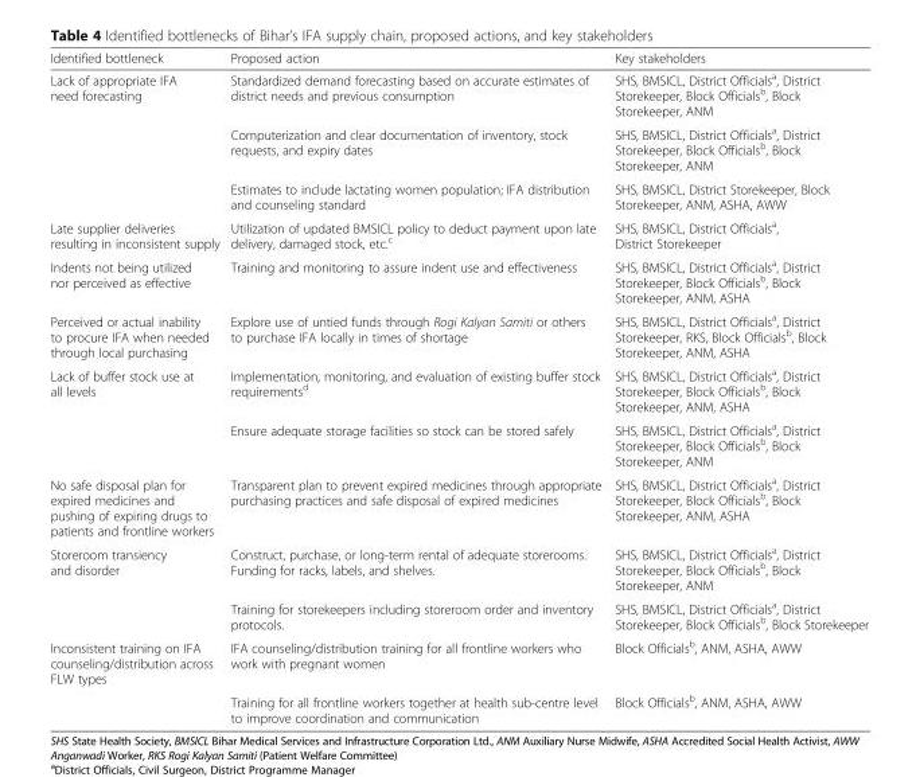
<table><thead><tr><td>Identified bottleneck</td><td>Proposed action</td><td>Key stakeholders</td></tr></thead><tbody><tr><td rowspan="3">Lack of appropriate IFA need forecasting</td><td>Standardized demand forecasting based on accurate estimates of district needs and previous consumption</td><td>SHS, BMSICL, District Officials<sup>a</sup>, District Storekeeper, Block Officials<sup>b</sup>, Block Storekeeper, ANM</td></tr><tr><td>Computerization and clear documentation of inventory, stock requests, and expiry dates</td><td>SHS, BMSICL, District Officials<sup>a</sup>, District Storekeeper, Block Officials<sup>b</sup>, Block Storekeeper, ANM</td></tr><tr><td>Estimates to include lactating women population; IFA distribution and counseling standard</td><td>SHS, BMSICL, District Storekeeper, Block Storekeeper, ANM, ASHA, AWW</td></tr><tr><td>Late supplier deliveries resulting in inconsistent supply</td><td>Utilization of updated BMSICL policy to deduct payment upon late delivery, damaged stock, etc.<sup>c</sup></td><td>SHS, BMSICL, District Officials<sup>a</sup>, District Storekeeper</td></tr><tr><td>Indents not being utilized nor perceived as effective</td><td>Training and monitoring to assure indent use and effectiveness</td><td>SHS, BMSICL, District Officials<sup>a</sup>, District Storekeeper, Block Officials<sup>b</sup>, Block Storekeeper, ANM, ASHA</td></tr><tr><td>Perceived or actual inability to procure IFA when needed through local purchasing</td><td>Explore use of untied funds through Rogi Kalyan Samiti or others to purchase IFA locally in times of shortage</td><td>SHS, BMSICL, District Officials<sup>a</sup>, District Storekeeper, RKS, Block Officials<sup>b</sup>, Block Storekeeper, ANM, ASHA</td></tr><tr><td rowspan="2">Lack of buffer stock use at all levels</td><td>Implementation, monitoring, and evaluation of existing buffer stock requirements<sup>d</sup></td><td>SHS, BMSICL, District Officials<sup>a</sup>, District Storekeeper, Block Officials<sup>b</sup>, Block Storekeeper, ANM, ASHA</td></tr><tr><td>Ensure adequate storage facilities so stock can be stored safely</td><td>SHS, BMSICL, District Officials<sup>a</sup>, District Storekeeper, Block Officials<sup>b</sup>, Block Storekeeper, ANM</td></tr><tr><td>No safe disposal plan for expired medicines and pushing of expiring drugs to patients and frontline workers</td><td>Transparent plan to prevent expired medicines through appropriate purchasing practices and safe disposal of expired medicines</td><td>SHS, BMSICL, District Officials<sup>a</sup>, District Storekeeper, Block Officials<sup>b</sup>, Block Storekeeper, ANM, ASHA</td></tr><tr><td rowspan="2">Storeroom transiency and disorder</td><td>Construct, purchase, or long-term rental of adequate storerooms. Funding for racks, labels, and shelves.</td><td>SHS, BMSICL, District Officials<sup>a</sup>, District Storekeeper, Block Officials<sup>b</sup>, Block Storekeeper, ANM</td></tr><tr><td>Training for storekeepers including storeroom order and inventory protocols.</td><td>SHS, BMSICL, District Officials<sup>a</sup>, District Storekeeper, Block Officials<sup>b</sup>, Block Storekeeper</td></tr><tr><td rowspan="2">Inconsistent training on IFA counseling/distribution across FLW types</td><td>IFA counseling/distribution training for all frontline workers who work with pregnant women</td><td>Block Officials<sup>b</sup>, ANM, ASHA, AWW</td></tr><tr><td>Training for all frontline workers together at health sub-centre level to improve coordination and communication</td><td>Block Officials<sup>b</sup>, ANM, ASHA, AWW</td></tr></tbody></table>